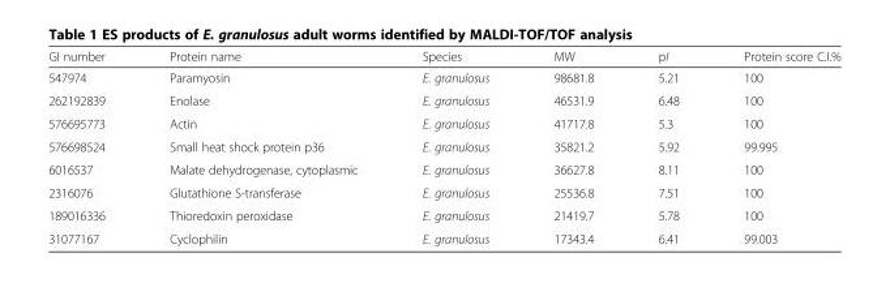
<table><thead><tr><td>GI number</td><td>Protein name</td><td>Species</td><td>MW</td><td>pI</td><td>Protein score C.I.%</td></tr></thead><tbody><tr><td>547974</td><td>Paramyosin</td><td>E. granulosus</td><td>98681.8</td><td>5.21</td><td>100</td></tr><tr><td>262192839</td><td>Enolase</td><td>E. granulosus</td><td>46531.9</td><td>6.48</td><td>100</td></tr><tr><td>576695773</td><td>Actin</td><td>E. granulosus</td><td>41717.8</td><td>5.3</td><td>100</td></tr><tr><td>576698524</td><td>Small heat shock protein p36</td><td>E. granulosus</td><td>35821.2</td><td>5.92</td><td>99.995</td></tr><tr><td>6016537</td><td>Malate dehydrogenase, cytoplasmic</td><td>E. granulosus</td><td>36627.8</td><td>8.11</td><td>100</td></tr><tr><td>2316076</td><td>Glutathione S-transferase</td><td>E. granulosus</td><td>25536.8</td><td>7.51</td><td>100</td></tr><tr><td>189016336</td><td>Thioredoxin peroxidase</td><td>E. granulosus</td><td>21419.7</td><td>5.78</td><td>100</td></tr><tr><td>31077167</td><td>Cyclophilin</td><td>E. granulosus</td><td>17343.4</td><td>6.41</td><td>99.003</td></tr></tbody></table>